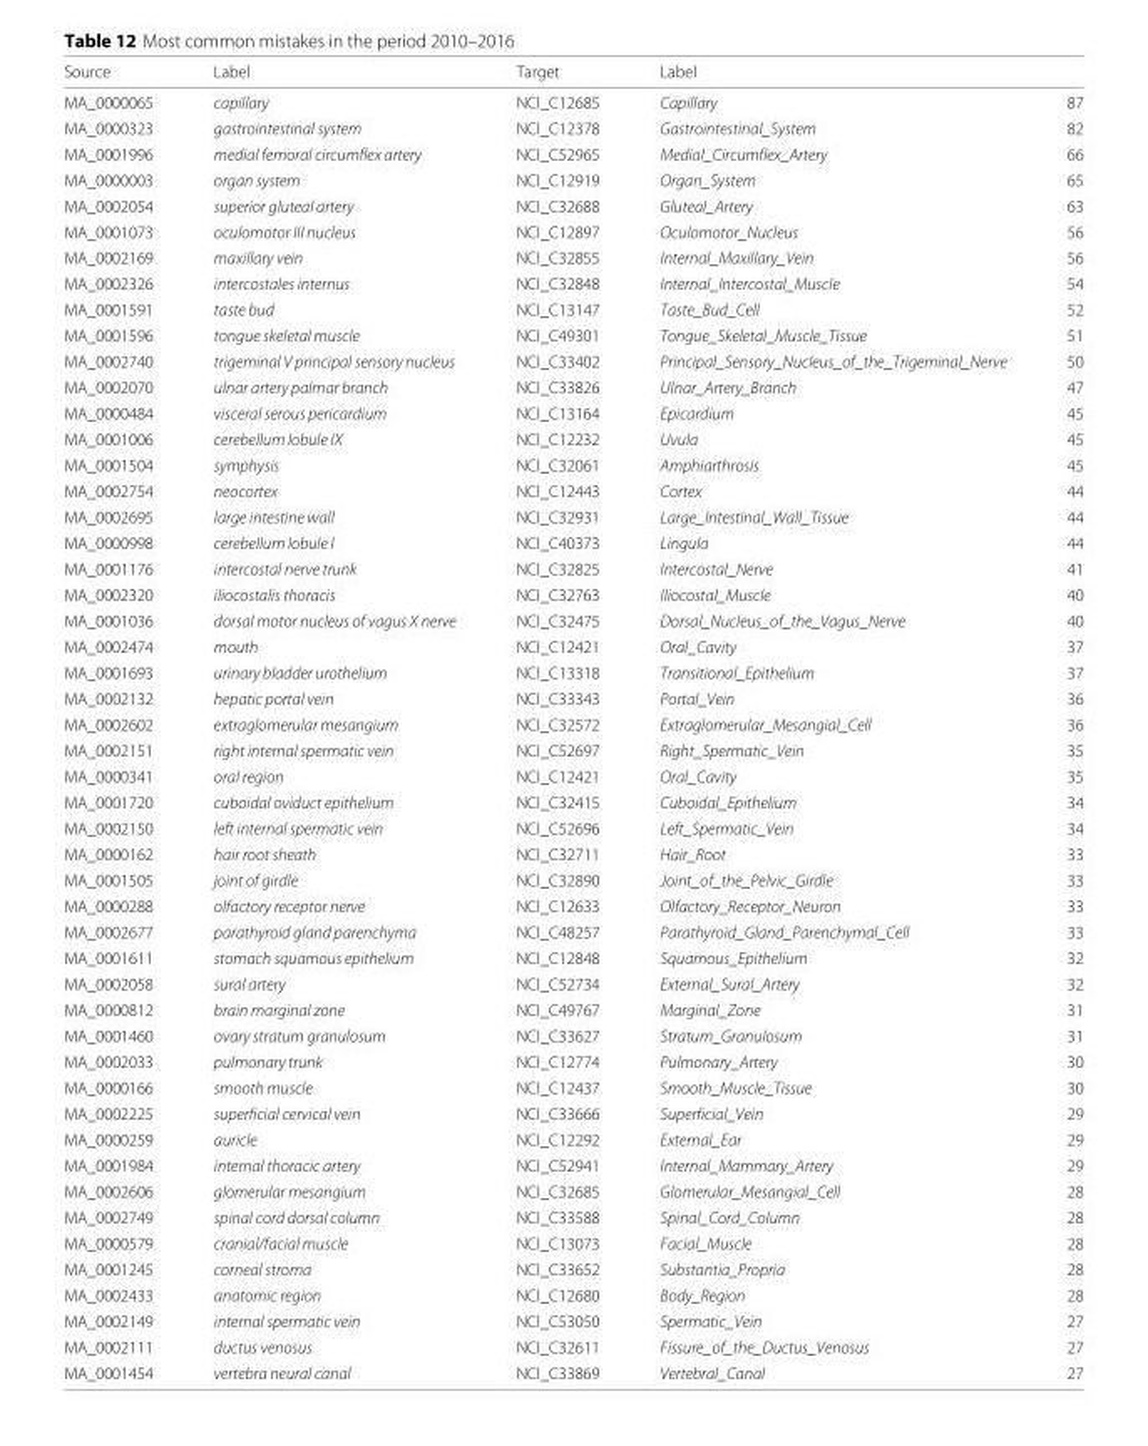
<table><thead><tr><td>Source</td><td>Label</td><td>Target</td><td>Label</td><td></td></tr></thead><tbody><tr><td>MA_0000065</td><td>capillary</td><td>NCI_C12685</td><td>Capillary</td><td>87</td></tr><tr><td>MA_0000323</td><td>gastrointestinal system</td><td>NCI_C12378</td><td>Gastrointestinal_System</td><td>82</td></tr><tr><td>MA_0001996</td><td>medial femoral circumflex artery</td><td>NCI_C52965</td><td>Medial_Circumflex_Artery</td><td>66</td></tr><tr><td>MA_0000003</td><td>organ system</td><td>NCI_C12919</td><td>Organ_System</td><td>65</td></tr><tr><td>MA_0002054</td><td>superior gluteal artery</td><td>NCI_C32688</td><td>Gluteal_Artery</td><td>63</td></tr><tr><td>MA_0001073</td><td>oculomotor III nucleus</td><td>NCI_C12897</td><td>Oculomotor_Nucleus</td><td>56</td></tr><tr><td>MA_0002169</td><td>maxillary vein</td><td>NCI_C32855</td><td>Internal_Maxillary_Vein</td><td>56</td></tr><tr><td>MA_0002326</td><td>intercostales internus</td><td>NCI_C32848</td><td>Internal_Intercostal_Muscle</td><td>54</td></tr><tr><td>MA_0001591</td><td>taste bud</td><td>NCI_C13147</td><td>Taste_Bud_Cell</td><td>52</td></tr><tr><td>MA_0001596</td><td>tongue skeletal muscle</td><td>NCI_C49301</td><td>Tongue_Skeletal_Muscle_Tissue</td><td>51</td></tr><tr><td>MA_0002740</td><td>trigeminal V principal sensory nucleus</td><td>NCI_C33402</td><td>Principal_Sensory_Nucleus_of_the_Trigeminal_Nerve</td><td>50</td></tr><tr><td>MA_0002070</td><td>ulnar artery palmar branch</td><td>NCI_C33826</td><td>Ulnar_Artery_Branch</td><td>47</td></tr><tr><td>MA_0000484</td><td>visceral serous pericardium</td><td>NCI_C13164</td><td>Epicardium</td><td>45</td></tr><tr><td>MA_0001006</td><td>cerebellum lobule IX</td><td>NCI_C12232</td><td>Uvula</td><td>45</td></tr><tr><td>MA_0001504</td><td>symphysis</td><td>NCI_C32061</td><td>Amphiarthrosis</td><td>45</td></tr><tr><td>MA_0002754</td><td>neocortex</td><td>NCI_C12443</td><td>Cortex</td><td>44</td></tr><tr><td>MA_0002695</td><td>large intestine wall</td><td>NCI_C32931</td><td>Large_Intestinal_Wall_Tissue</td><td>44</td></tr><tr><td>MA_0000998</td><td>cerebellum lobule I</td><td>NCI_C40373</td><td>Lingula</td><td>44</td></tr><tr><td>MA_0001176</td><td>intercostal nerve trunk</td><td>NCI_C32825</td><td>Intercostal_Nerve</td><td>41</td></tr><tr><td>MA_0002320</td><td>iliocostalis thoracis</td><td>NCI_C32763</td><td>Iliocostal_Muscle</td><td>40</td></tr><tr><td>MA_0001036</td><td>dorsal motor nucleus of vagus X nerve</td><td>NCI_C32475</td><td>Dorsal_Nucleus_of_the_Vagus_Nerve</td><td>40</td></tr><tr><td>MA_0002474</td><td>mouth</td><td>NCI_C12421</td><td>Oral_Cavity</td><td>37</td></tr><tr><td>MA_0001693</td><td>urinary bladder urothelium</td><td>NCI_C13318</td><td>Transitional_Epithelium</td><td>37</td></tr><tr><td>MA_0002132</td><td>hepatic portal vein</td><td>NCI_C33343</td><td>Portal_Vein</td><td>36</td></tr><tr><td>MA_0002602</td><td>extraglomerular mesangium</td><td>NCI_C32572</td><td>Extraglomerular_Mesangial_Cell</td><td>36</td></tr><tr><td>MA_0002151</td><td>right internal spermatic vein</td><td>NCI_C52697</td><td>Right_Spermatic_Vein</td><td>35</td></tr><tr><td>MA_0000341</td><td>oral region</td><td>NCI_C12421</td><td>Oral_Cavity</td><td>35</td></tr><tr><td>MA_0001720</td><td>cuboidal oviduct epithelium</td><td>NCI_C32415</td><td>Cuboidal_Epithelium</td><td>34</td></tr><tr><td>MA_0002150</td><td>left internal spermatic vein</td><td>NCI_C52696</td><td>Left_Spermatic_Vein</td><td>34</td></tr><tr><td>MA_0000162</td><td>hair root sheath</td><td>NCI_C32711</td><td>Hair_Root</td><td>33</td></tr><tr><td>MA_0001505</td><td>joint of girdle</td><td>NCI_C32890</td><td>Joint_of_the_Pelvic_Girdle</td><td>33</td></tr><tr><td>MA_0000288</td><td>olfactory receptor nerve</td><td>NCI_C12633</td><td>Olfactory_Receptor_Neuron</td><td>33</td></tr><tr><td>MA_0002677</td><td>parathyroid gland parenchyma</td><td>NCI_C48257</td><td>Parathyroid_Gland_Parenchymal_Cell</td><td>33</td></tr><tr><td>MA_0001611</td><td>stomach squamous epithelium</td><td>NCI_C12848</td><td>Squamous_Epithelium</td><td>32</td></tr><tr><td>MA_0002058</td><td>sural artery</td><td>NCI_C52734</td><td>External_Sural_Artery</td><td>32</td></tr><tr><td>MA_0000812</td><td>brain marginal zone</td><td>NCI_C49767</td><td>Marginal_Zone</td><td>31</td></tr><tr><td>MA_0001460</td><td>ovary stratum granulosum</td><td>NCI_C33627</td><td>Stratum_Granulosum</td><td>31</td></tr><tr><td>MA_0002033</td><td>pulmonary trunk</td><td>NCI_C12774</td><td>Pulmonary_Artery</td><td>30</td></tr><tr><td>MA_0000166</td><td>smooth muscle</td><td>NCI_C12437</td><td>Smooth_Muscle_Tissue</td><td>30</td></tr><tr><td>MA_0002225</td><td>superficial cervical vein</td><td>NCI_C33666</td><td>Superficial_Vein</td><td>29</td></tr><tr><td>MA_0000259</td><td>auricle</td><td>NCI_C12292</td><td>External_Ear</td><td>29</td></tr><tr><td>MA_0001984</td><td>internal thoracic artery</td><td>NCI_C52941</td><td>Internal_Mammary_Artery</td><td>29</td></tr><tr><td>MA_0002606</td><td>glomerular mesangium</td><td>NCI_C32685</td><td>Glomerular_Mesangial_Cell</td><td>28</td></tr><tr><td>MA_0002749</td><td>spinal cord dorsal column</td><td>NCI_C33588</td><td>Spinal_Cord_Column</td><td>28</td></tr><tr><td>MA_0000579</td><td>cranial/facial muscle</td><td>NCI_C13073</td><td>Facial_Muscle</td><td>28</td></tr><tr><td>MA_0001245</td><td>corneal stroma</td><td>NCI_C33652</td><td>Substantia_Propria</td><td>28</td></tr><tr><td>MA_0002433</td><td>anatomic region</td><td>NCI_C12680</td><td>Body_Region</td><td>28</td></tr><tr><td>MA_0002149</td><td>internal spermatic vein</td><td>NCI_C53050</td><td>Spermatic_Vein</td><td>27</td></tr><tr><td>MA_0002111</td><td>ductus venosus</td><td>NCI_C32611</td><td>Fissure_of_the_Ductus_Venosus</td><td>27</td></tr><tr><td>MA_0001454</td><td>vertebra neural canal</td><td>NCI_C33869</td><td>Vertebral_Canal</td><td>27</td></tr></tbody></table>